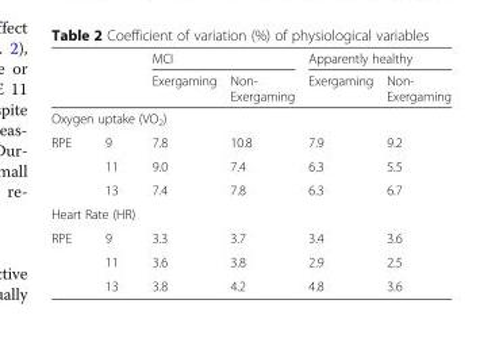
<table><thead><tr><td rowspan="2"></td><td rowspan="2"></td><td colspan="2">MCI</td><td colspan="2">Apparently healthy</td></tr><tr><td>Exergaming</td><td>Non- Exergaming</td><td>Exergaming</td><td>Non- Exergaming</td></tr></thead><tbody><tr><td colspan="6">Oxygen uptake (VO<sub>2</sub>)</td></tr><tr><td rowspan="3">RPE</td><td>9</td><td>7.8</td><td>10.8</td><td>7.9</td><td>9.2</td></tr><tr><td>11</td><td>9.0</td><td>7.4</td><td>6.3</td><td>5.5</td></tr><tr><td>13</td><td>7.4</td><td>7.8</td><td>6.3</td><td>6.7</td></tr><tr><td colspan="6">Heart Rate (HR)</td></tr><tr><td rowspan="3">RPE</td><td>9</td><td>3.3</td><td>3.7</td><td>3.4</td><td>3.6</td></tr><tr><td>11</td><td>3.6</td><td>3.8</td><td>2.9</td><td>2.5</td></tr><tr><td>13</td><td>3.8</td><td>4.2</td><td>4.8</td><td>3.6</td></tr></tbody></table>